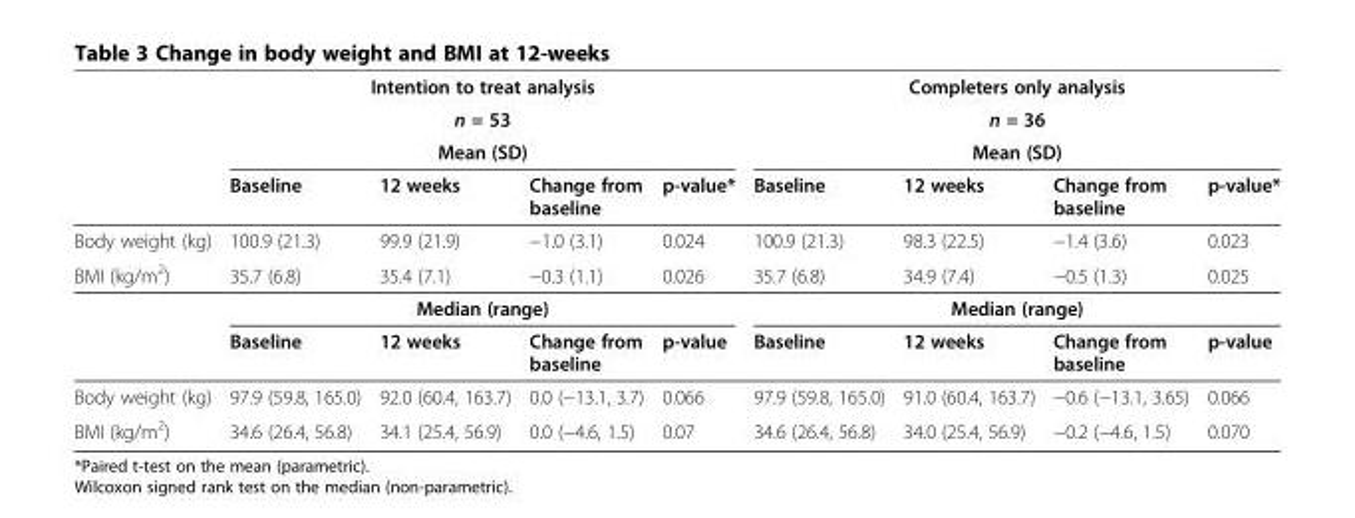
<table><thead><tr><td rowspan="4"></td><td rowspan="3" colspan="4">Intention to treat analysis n = 53 Mean (SD)</td><td rowspan="3" colspan="4">Completers only analysis n = 36 Mean (SD)</td></tr><tr></tr><tr></tr><tr><td>Baseline</td><td>12 weeks</td><td>Change from baseline</td><td>p-value*</td><td>Baseline</td><td>12 weeks</td><td>Change from baseline</td><td>p-value*</td></tr></thead><tbody><tr><td>Body weight (kg)</td><td>100.9 (21.3)</td><td>99.9 (21.9)</td><td>−1.0 (3.1)</td><td>0.024</td><td>100.9 (21.3)</td><td>98.3 (22.5)</td><td>−1.4 (3.6)</td><td>0.023</td></tr><tr><td rowspan="3">BMI (kg/m<sup>2</sup>)</td><td>35.7 (6.8)</td><td>35.4 (7.1)</td><td>−0.3 (1.1)</td><td>0.026</td><td>35.7 (6.8)</td><td>34.9 (7.4)</td><td>−0.5 (1.3)</td><td>0.025</td></tr><tr><td colspan="4">Median (range)</td><td colspan="4">Median (range)</td></tr><tr><td>Baseline</td><td>12 weeks</td><td>Change from baseline</td><td>p-value</td><td>Baseline</td><td>12 weeks</td><td>Change from baseline</td><td>p-value</td></tr><tr><td>Body weight (kg)</td><td>97.9 (59.8, 165.0)</td><td>92.0 (60.4, 163.7)</td><td>0.0 (−13.1, 3.7)</td><td>0.066</td><td>97.9 (59.8, 165.0)</td><td>91.0 (60.4, 163.7)</td><td>−0.6 (−13.1, 3.65)</td><td>0.066</td></tr><tr><td>BMI (kg/m<sup>2</sup>)</td><td>34.6 (26.4, 56.8)</td><td>34.1 (25.4, 56.9)</td><td>0.0 (−4.6, 1.5)</td><td>0.07</td><td>34.6 (26.4, 56.8)</td><td>34.0 (25.4, 56.9)</td><td>−0.2 (−4.6, 1.5)</td><td>0.070</td></tr></tbody></table>